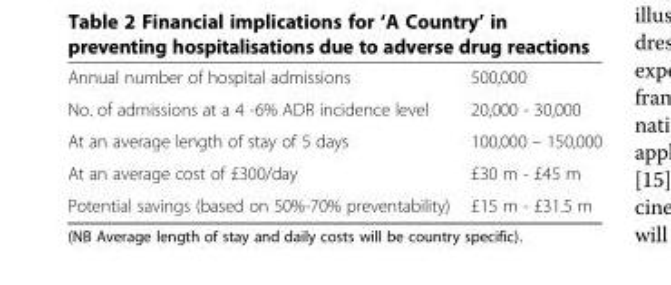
<table><tbody><tr><td>Annual number of hospital admissions</td><td>500,000</td></tr><tr><td>No. of admissions at a 4 -6% ADR incidence level</td><td>20,000 - 30,000</td></tr><tr><td>At an average length of stay of 5 days</td><td>100,000 – 150,000</td></tr><tr><td>At an average cost of £300/day</td><td>£30 m - £45 m</td></tr><tr><td>Potential savings (based on 50%-70% preventability)</td><td>£15 m - £31.5 m</td></tr></tbody></table>